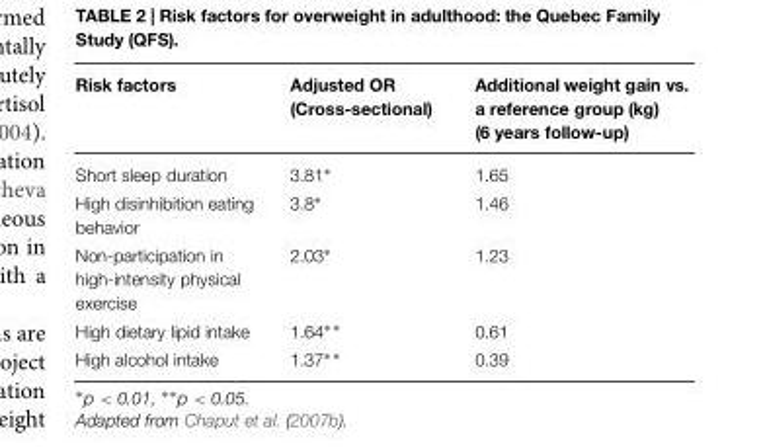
<table><thead><tr><td>Risk factors</td><td>Adjusted OR (Cross-sectional)</td><td>Additional weight gain vs. a reference group (kg) (6 years follow-up)</td></tr></thead><tbody><tr><td>Short sleep duration</td><td>3.81∗</td><td>1.65</td></tr><tr><td>High disinhibition eating behavior</td><td>3.8∗</td><td>1.46</td></tr><tr><td>Non-participation in high-intensity physical exercise</td><td>2.03∗</td><td>1.23</td></tr><tr><td>High dietary lipid intake</td><td>1.64∗∗</td><td>0.61</td></tr><tr><td>High alcohol intake</td><td>1.37∗∗</td><td>0.39</td></tr></tbody></table>